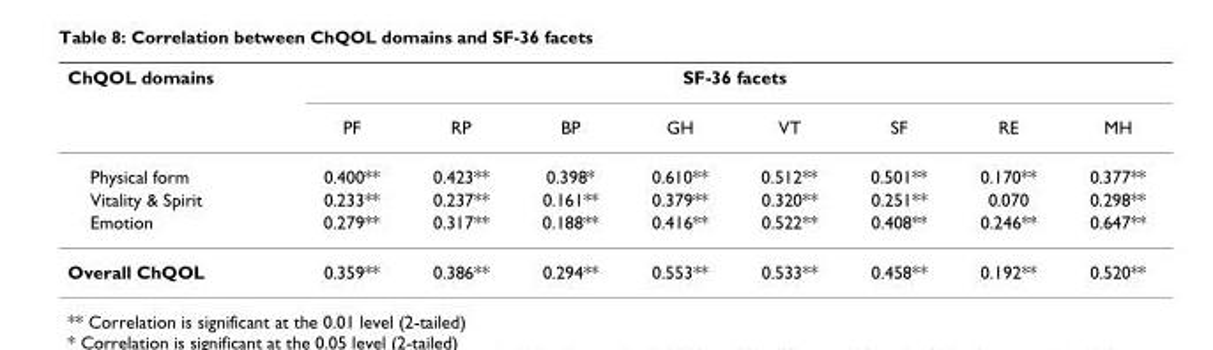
<table><thead><tr><td rowspan="2">ChQOL domains</td><td colspan="8">SF-36 facets</td></tr><tr><td>PF</td><td>RP</td><td>BP</td><td>GH</td><td>VT</td><td>SF</td><td>RE</td><td>MH</td></tr></thead><tbody><tr><td>Physical form</td><td>0.400**</td><td>0.423**</td><td>0.398*</td><td>0.610**</td><td>0.512**</td><td>0.501**</td><td>0.170**</td><td>0.377**</td></tr><tr><td>Vitality &amp; Spirit</td><td>0.233**</td><td>0.237**</td><td>0.161**</td><td>0.379**</td><td>0.320**</td><td>0.251**</td><td>0.070</td><td>0.298**</td></tr><tr><td>Emotion</td><td>0.279**</td><td>0.317**</td><td>0.188**</td><td>0.416**</td><td>0.522**</td><td>0.408**</td><td>0.246**</td><td>0.647**</td></tr><tr><td>Overall ChQOL</td><td>0.359**</td><td>0.386**</td><td>0.294**</td><td>0.553**</td><td>0.533**</td><td>0.458**</td><td>0.192**</td><td>0.520**</td></tr></tbody></table>